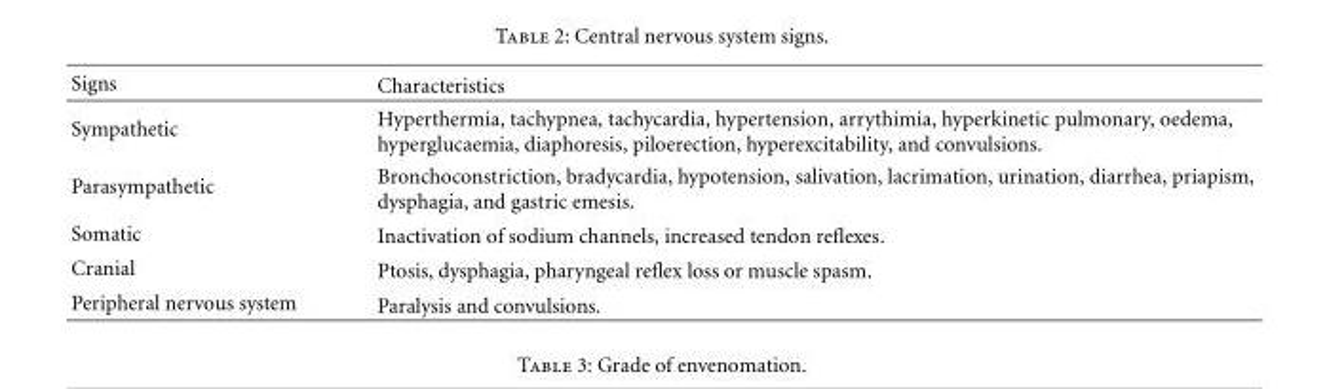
<table><thead><tr><td>Signs</td><td>Characteristics</td></tr></thead><tbody><tr><td>Sympathetic</td><td>Hyperthermia, tachypnea, tachycardia, hypertension, arrythimia, hyperkinetic pulmonary, oedema, hyperglucaemia, diaphoresis, piloerection, hyperexcitability, and convulsions.</td></tr><tr><td>Parasympathetic</td><td>Bronchoconstriction, bradycardia, hypotension, salivation, lacrimation, urination, diarrhea, priapism, dysphagia, and gastric emesis.</td></tr><tr><td>Somatic</td><td>Inactivation of sodium channels, increased tendon reflexes.</td></tr><tr><td>Cranial</td><td>Ptosis, dysphagia, pharyngeal reflex loss or muscle spasm.</td></tr><tr><td>Peripheral nervous system</td><td>Paralysis and convulsions.</td></tr></tbody></table>